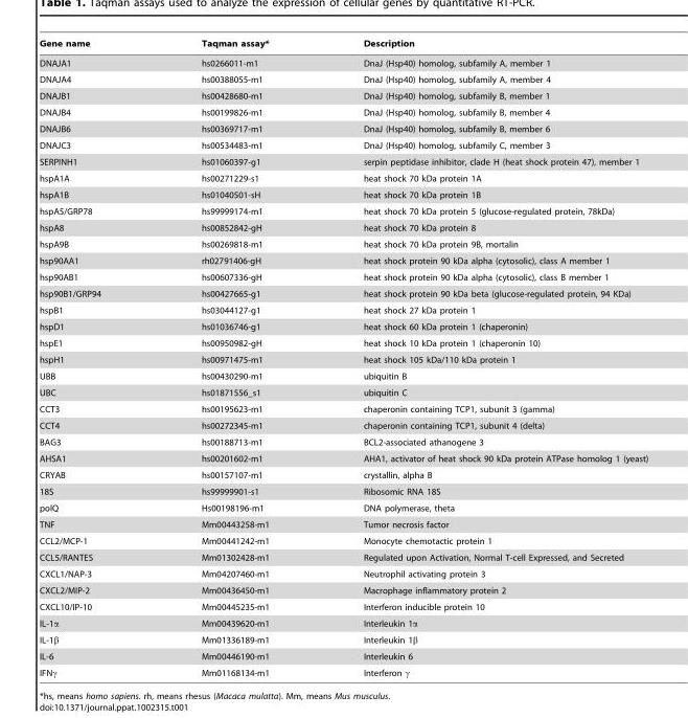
<table><thead><tr><td>Gene name</td><td>Taqman assay*</td><td>Description</td></tr></thead><tbody><tr><td>DNAJA1</td><td>hs0266011-m1</td><td>DnaJ (Hsp40) homolog, subfamily A, member 1</td></tr><tr><td>DNAJA4</td><td>hs00388055-m1</td><td>DnaJ (Hsp40) homolog, subfamily A, member 4</td></tr><tr><td>DNAJB1</td><td>hs00428680-m1</td><td>DnaJ (Hsp40) homolog, subfamily B, member 1</td></tr><tr><td>DNAJB4</td><td>hs00199826-m1</td><td>DnaJ (Hsp40) homolog, subfamily B, member 4</td></tr><tr><td>DNAJB6</td><td>hs00369717-m1</td><td>DnaJ (Hsp40) homolog, subfamily B, member 6</td></tr><tr><td>DNAJC3</td><td>hs00534483-m1</td><td>DnaJ (Hsp40) homolog, subfamily C, member 3</td></tr><tr><td>SERPINH1</td><td>hs01060397-g1</td><td>serpin peptidase inhibitor, clade H (heat shock protein 47), member 1</td></tr><tr><td>hspA1A</td><td>hs00271229-s1</td><td>heat shock 70 kDa protein 1A</td></tr><tr><td>hspA1B</td><td>hs01040501-sH</td><td>heat shock 70 kDa protein 1B</td></tr><tr><td>hspA5/GRP78</td><td>hs99999174-m1</td><td>heat shock 70 kDa protein 5 (glucose-regulated protein, 78kDa)</td></tr><tr><td>hspA8</td><td>hs00852842-gH</td><td>heat shock 70 kDa protein 8</td></tr><tr><td>hspA9B</td><td>hs00269818-m1</td><td>heat shock 70 kDa protein 9B, mortalin</td></tr><tr><td>hsp90AA1</td><td>rh02791406-gH</td><td>heat shock protein 90 kDa alpha (cytosolic), class A member 1</td></tr><tr><td>hsp90AB1</td><td>hs00607336-gH</td><td>heat shock protein 90 kDa alpha (cytosolic), class B member 1</td></tr><tr><td>hsp90B1/GRP94</td><td>hs00427665-g1</td><td>heat shock protein 90 kDa beta (glucose-regulated protein, 94 KDa)</td></tr><tr><td>hspB1</td><td>hs03044127-g1</td><td>heat shock 27 kDa protein 1</td></tr><tr><td>hspD1</td><td>hs01036746-g1</td><td>heat shock 60 kDa protein 1 (chaperonin)</td></tr><tr><td>hspE1</td><td>hs00950982-gH</td><td>heat shock 10 kDa protein 1 (chaperonin 10)</td></tr><tr><td>hspH1</td><td>hs00971475-m1</td><td>heat shock 105 kDa/110 kDa protein 1</td></tr><tr><td>UBB</td><td>hs00430290-m1</td><td>ubiquitin B</td></tr><tr><td>UBC</td><td>hs01871556_s1</td><td>ubiquitin C</td></tr><tr><td>CCT3</td><td>hs00195623-m1</td><td>chaperonin containing TCP1, subunit 3 (gamma)</td></tr><tr><td>CCT4</td><td>hs00272345-m1</td><td>chaperonin containing TCP1, subunit 4 (delta)</td></tr><tr><td>BAG3</td><td>hs00188713-m1</td><td>BCL2-associated athanogene 3</td></tr><tr><td>AHSA1</td><td>hs00201602-m1</td><td>AHA1, activator of heat shock 90 kDa protein ATPase homolog 1 (yeast)</td></tr><tr><td>CRYAB</td><td>hs00157107-m1</td><td>crystallin, alpha B</td></tr><tr><td>18S</td><td>hs99999901-s1</td><td>Ribosomic RNA 18S</td></tr><tr><td>polQ</td><td>Hs00198196-m1</td><td>DNA polymerase, theta</td></tr><tr><td>TNF</td><td>Mm00443258-m1</td><td>Tumor necrosis factor</td></tr><tr><td>CCL2/MCP-1</td><td>Mm00441242-m1</td><td>Monocyte chemotactic protein 1</td></tr><tr><td>CCL5/RANTES</td><td>Mm01302428-m1</td><td>Regulated upon Activation, Normal T-cell Expressed, and Secreted</td></tr><tr><td>CXCL1/NAP-3</td><td>Mm04207460-m1</td><td>Neutrophil activating protein 3</td></tr><tr><td>CXCL2/MIP-2</td><td>Mm00436450-m1</td><td>Macrophage inflammatory protein 2</td></tr><tr><td>CXCL10/IP-10</td><td>Mm00445235-m1</td><td>Interferon inducible protein 10</td></tr><tr><td>IL-1α</td><td>Mm00439620-m1</td><td>Interleukin 1α</td></tr><tr><td>IL-1β</td><td>Mm01336189-m1</td><td>Interleukin 1β</td></tr><tr><td>IL-6</td><td>Mm00446190-m1</td><td>Interleukin 6</td></tr><tr><td>IFNγ</td><td>Mm01168134-m1</td><td>Interferon γ</td></tr></tbody></table>